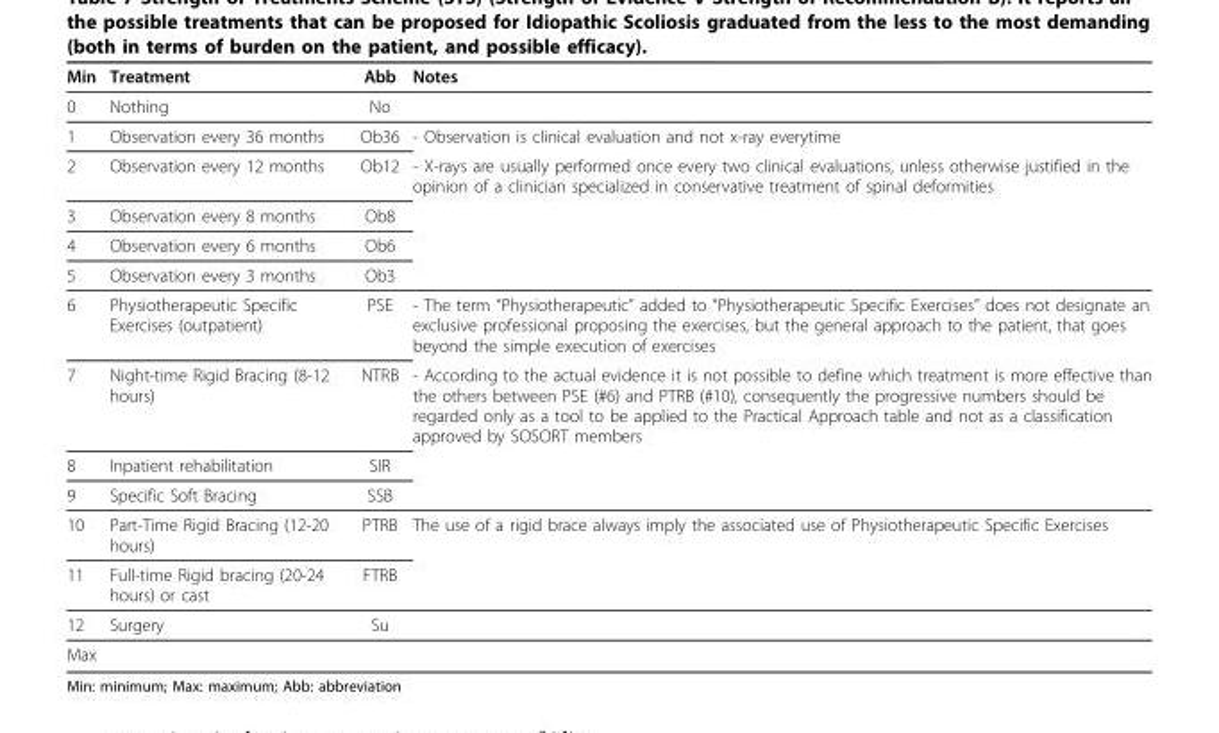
<table><thead><tr><td>Min</td><td>Treatment</td><td>Abb</td><td>Notes</td></tr></thead><tbody><tr><td>0</td><td>Nothing</td><td>No</td><td></td></tr><tr><td>1</td><td>Observation every 36 months</td><td>Ob36</td><td>- Observation is clinical evaluation and not x-ray everytime</td></tr><tr><td>2</td><td>Observation every 12 months</td><td>Ob12</td><td>- X-rays are usually performed once every two clinical evaluations, unless otherwise justified in the opinion of a clinician specialized in conservative treatment of spinal deformities</td></tr><tr><td>3</td><td>Observation every 8 months</td><td>Ob8</td><td></td></tr><tr><td>4</td><td>Observation every 6 months</td><td>Ob6</td><td></td></tr><tr><td>5</td><td>Observation every 3 months</td><td>Ob3</td><td></td></tr><tr><td>6</td><td>Physiotherapeutic Specific Exercises (outpatient)</td><td>PSE</td><td>- The term “Physiotherapeutic” added to “Physiotherapeutic Specific Exercises” does not designate an exclusive professional proposing the exercises, but the general approach to the patient, that goes beyond the simple execution of exercises</td></tr><tr><td>7</td><td>Night-time Rigid Bracing (8-12 hours)</td><td>NTRB</td><td>- According to the actual evidence it is not possible to define which treatment is more effective than the others between PSE (#6) and PTRB (#10), consequently the progressive numbers should be regarded only as a tool to be applied to the Practical Approach table and not as a classification approved by SOSORT members</td></tr><tr><td>8</td><td>Inpatient rehabilitation</td><td>SIR</td><td></td></tr><tr><td>9</td><td>Specific Soft Bracing</td><td>SSB</td><td></td></tr><tr><td>10</td><td>Part-Time Rigid Bracing (12-20 hours)</td><td>PTRB</td><td>The use of a rigid brace always imply the associated use of Physiotherapeutic Specific Exercises</td></tr><tr><td>11</td><td>Full-time Rigid bracing (20-24 hours) or cast</td><td>FTRB</td><td></td></tr><tr><td>12</td><td>Surgery</td><td>Su</td><td></td></tr><tr><td>Max</td><td></td><td></td><td></td></tr></tbody></table>